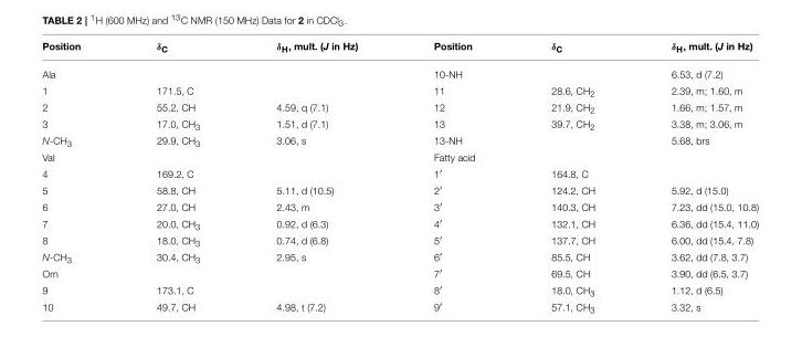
<table><thead><tr><td>Position</td><td>δ<sub>C</sub></td><td>δ<sub>H</sub>, mult. (J in Hz)</td><td>Position</td><td>δ<sub>C</sub></td><td>δ<sub>H</sub>, mult. (J in Hz)</td></tr></thead><tbody><tr><td>Ala</td><td></td><td></td><td>10-NH</td><td></td><td>6.53, d (7.2)</td></tr><tr><td>1</td><td>171.5, C</td><td></td><td>11</td><td>28.6, CH<sub>2</sub></td><td>2.39, m; 1.60, m</td></tr><tr><td>2</td><td>55.2, CH</td><td>4.59, q (7.1)</td><td>12</td><td>21.9, CH<sub>2</sub></td><td>1.66, m; 1.57, m</td></tr><tr><td>3</td><td>17.0, CH<sub>3</sub></td><td>1.51, d (7.1)</td><td>13</td><td>39.7, CH<sub>2</sub></td><td>3.38, m; 3.06, m</td></tr><tr><td>N-CH<sub>3</sub></td><td>29.9, CH<sub>3</sub></td><td>3.06, s</td><td>13-NH</td><td></td><td>5.68, brs</td></tr><tr><td>Val</td><td></td><td></td><td>Fatty acid</td><td></td><td></td></tr><tr><td>4</td><td>169.2, C</td><td></td><td>1′</td><td>164.8, C</td><td></td></tr><tr><td>5</td><td>58.8, CH</td><td>5.11, d (10.5)</td><td>2′</td><td>124.2, CH</td><td>5.92, d (15.0)</td></tr><tr><td>6</td><td>27.0, CH</td><td>2.43, m</td><td>3′</td><td>140.3, CH</td><td>7.23, dd (15.0, 10.8)</td></tr><tr><td>7</td><td>20.0, CH<sub>3</sub></td><td>0.92, d (6.3)</td><td>4′</td><td>132.1, CH</td><td>6.36, dd (15.4, 11.0)</td></tr><tr><td>8</td><td>18.0, CH<sub>3</sub></td><td>0.74, d (6.8)</td><td>5′</td><td>137.7, CH</td><td>6.00, dd (15.4, 7.8)</td></tr><tr><td>N-CH<sub>3</sub></td><td>30.4, CH<sub>3</sub></td><td>2.95, s</td><td>6′</td><td>85.5, CH</td><td>3.62, dd (7.8, 3.7)</td></tr><tr><td>Orn</td><td></td><td></td><td>7′</td><td>69.5, CH</td><td>3.90, dd (6.5, 3.7)</td></tr><tr><td>9</td><td>173.1, C</td><td></td><td>8′</td><td>18.0, CH<sub>3</sub></td><td>1.12, d (6.5)</td></tr><tr><td>10</td><td>49.7, CH</td><td>4.98, t (7.2)</td><td>9′</td><td>57.1, CH<sub>3</sub></td><td>3.32, s</td></tr></tbody></table>